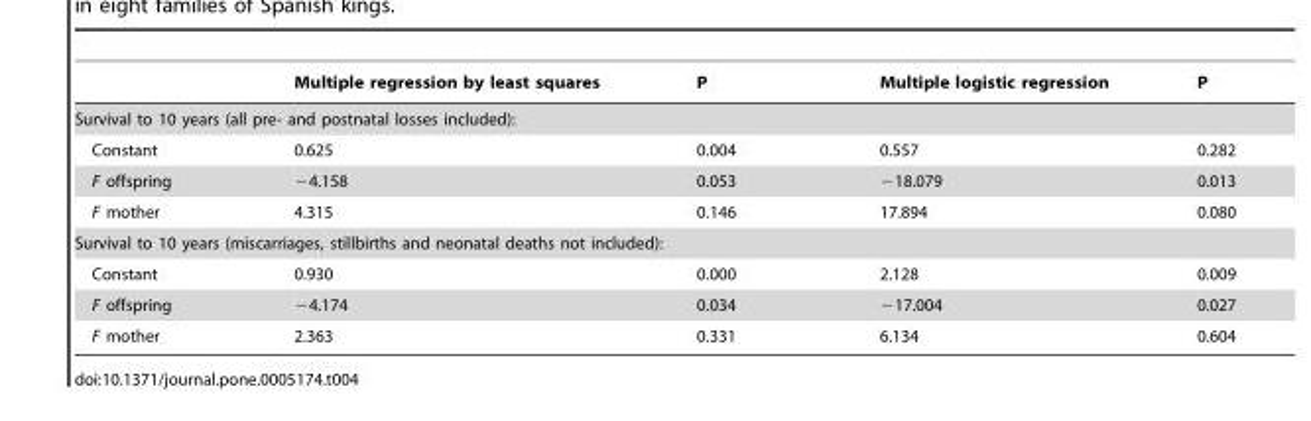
<table><thead><tr><td></td><td>Multiple regression by least squares</td><td>P</td><td>Multiple logistic regression</td><td>P</td></tr></thead><tbody><tr><td colspan="5">Survival to 10 years (all pre- and postnatal losses included):</td></tr><tr><td>Constant</td><td>0.625</td><td>0.004</td><td>0.557</td><td>0.282</td></tr><tr><td>F offspring</td><td>−4.158</td><td>0.053</td><td>−18.079</td><td>0.013</td></tr><tr><td>F mother</td><td>4.315</td><td>0.146</td><td>17.894</td><td>0.080</td></tr><tr><td colspan="5">Survival to 10 years (miscarriages, stillbirths and neonatal deaths not included):</td></tr><tr><td>Constant</td><td>0.930</td><td>0.000</td><td>2.128</td><td>0.009</td></tr><tr><td>F offspring</td><td>−4.174</td><td>0.034</td><td>−17.004</td><td>0.027</td></tr><tr><td>F mother</td><td>2.363</td><td>0.331</td><td>6.134</td><td>0.604</td></tr></tbody></table>